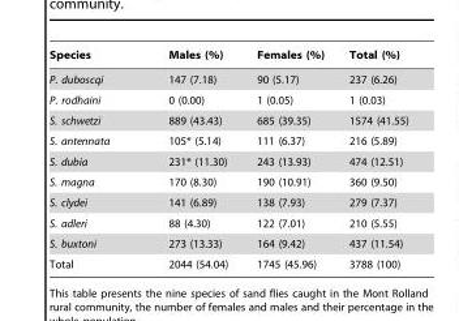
<table><thead><tr><td>Species</td><td>Males (%)</td><td>Females (%)</td><td>Total (%)</td></tr></thead><tbody><tr><td>P. duboscqi</td><td>147 (7.18)</td><td>90 (5.17)</td><td>237 (6.26)</td></tr><tr><td>P. rodhaini</td><td>0 (0.00)</td><td>1 (0.05)</td><td>1 (0.03)</td></tr><tr><td>S. schwetzi</td><td>889 (43.43)</td><td>685 (39.35)</td><td>1574 (41.55)</td></tr><tr><td>S. antennata</td><td>105* (5.14)</td><td>111 (6.37)</td><td>216 (5.89)</td></tr><tr><td>S. dubia</td><td>231* (11.30)</td><td>243 (13.93)</td><td>474 (12.51)</td></tr><tr><td>S. magna</td><td>170 (8.30)</td><td>190 (10.91)</td><td>360 (9.50)</td></tr><tr><td>S. clydei</td><td>141 (6.89)</td><td>138 (7.93)</td><td>279 (7.37)</td></tr><tr><td>S. adleri</td><td>88 (4.30)</td><td>122 (7.01)</td><td>210 (5.55)</td></tr><tr><td>S. buxtoni</td><td>273 (13.33)</td><td>164 (9.42)</td><td>437 (11.54)</td></tr><tr><td>Total</td><td>2044 (54.04)</td><td>1745 (45.96)</td><td>3788 (100)</td></tr></tbody></table>